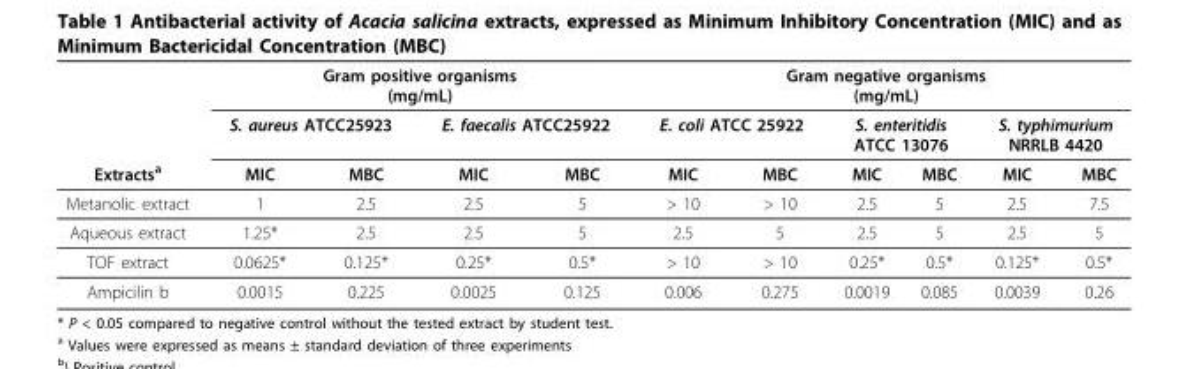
<table><thead><tr><td rowspan="3">Extracts<sup>a</sup></td><td colspan="4">Gram positive organisms (mg/mL)</td><td colspan="6">Gram negative organisms (mg/mL)</td></tr><tr><td colspan="2">S. aureus ATCC25923</td><td colspan="2">E. faecalis ATCC25922</td><td colspan="2">E. coli ATCC 25922</td><td colspan="2">S. enteritidis ATCC 13076</td><td colspan="2">S. typhimurium NRRLB 4420</td></tr><tr><td>MIC</td><td>MBC</td><td>MIC</td><td>MBC</td><td>MIC</td><td>MBC</td><td>MIC</td><td>MBC</td><td>MIC</td><td>MBC</td></tr></thead><tbody><tr><td>Metanolic extract</td><td>1</td><td>2.5</td><td>2.5</td><td>5</td><td>&gt; 10</td><td>&gt; 10</td><td>2.5</td><td>5</td><td>2.5</td><td>7.5</td></tr><tr><td>Aqueous extract</td><td>1.25*</td><td>2.5</td><td>2.5</td><td>5</td><td>2.5</td><td>5</td><td>2.5</td><td>5</td><td>2.5</td><td>5</td></tr><tr><td>TOF extract</td><td>0.0625*</td><td>0.125*</td><td>0.25*</td><td>0.5*</td><td>&gt; 10</td><td>&gt; 10</td><td>0.25*</td><td>0.5*</td><td>0.125*</td><td>0.5*</td></tr><tr><td>Ampicilin b</td><td>0.0015</td><td>0.225</td><td>0.0025</td><td>0.125</td><td>0.006</td><td>0.275</td><td>0.0019</td><td>0.085</td><td>0.0039</td><td>0.26</td></tr></tbody></table>